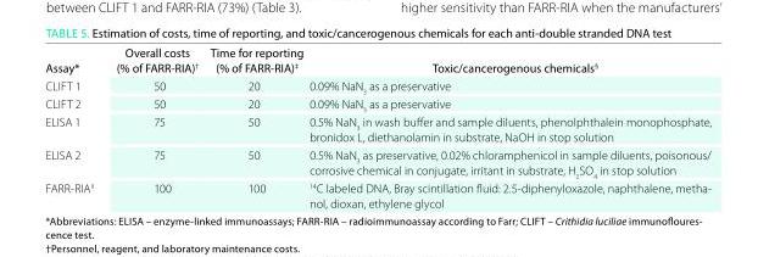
<table><thead><tr><td>Assay*</td><td>overall costs (% of FArr-riA)†</td><td>Time for reporting (% of FArr-riA)<sup>‡</sup></td><td>Toxic/cancerogenous chemicals<sup>§</sup></td></tr></thead><tbody><tr><td>CLIFT 1</td><td>50</td><td>20</td><td>0.09% NaN<sub>3</sub> as a preservative</td></tr><tr><td>CLIFT 2</td><td>50</td><td>20</td><td>0.09% NaN<sub>3</sub> as a preservative</td></tr><tr><td>ELISA 1</td><td>75</td><td>50</td><td>0.5% NaN<sub>3</sub> in wash buffer and sample diluents, phenolphthalein monophosphate, bronidox L, diethanolamin in substrate, NaOH in stop solution</td></tr><tr><td>ELISA 2</td><td>75</td><td>50</td><td>0.5% NaN<sub>3</sub> as preservative, 0.02% chloramphenicol in sample diluents, poisonous/ corrosive chemical in conjugate, irritant in substrate, H<sub>2</sub>SO<sub>4</sub> in stop solution</td></tr><tr><td>FARR-RIAII</td><td>100</td><td>100</td><td>14C labeled DNA, Bray scintillation fluid: 2.5-diphenyloxazole, naphthalene, metha- nol, dioxan, ethylene glycol</td></tr></tbody></table>